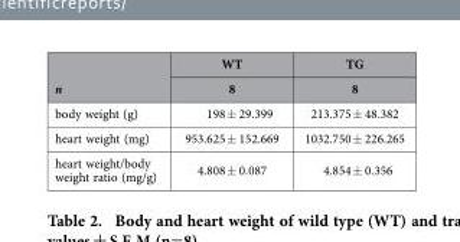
<table><thead><tr><td rowspan="2">n</td><td rowspan="2">WT 8</td><td rowspan="2">TG 8</td></tr><tr></tr></thead><tbody><tr><td>body weight (g)</td><td>198 ± 29.399</td><td>213.375 ± 48.382</td></tr><tr><td>heart weight (mg)</td><td>953.625 ± 152.669</td><td>1032.750 ± 226.265</td></tr><tr><td>heart weight/body weight ratio (mg/g)</td><td>4.808 ± 0.087</td><td>4.854 ± 0.356</td></tr></tbody></table>